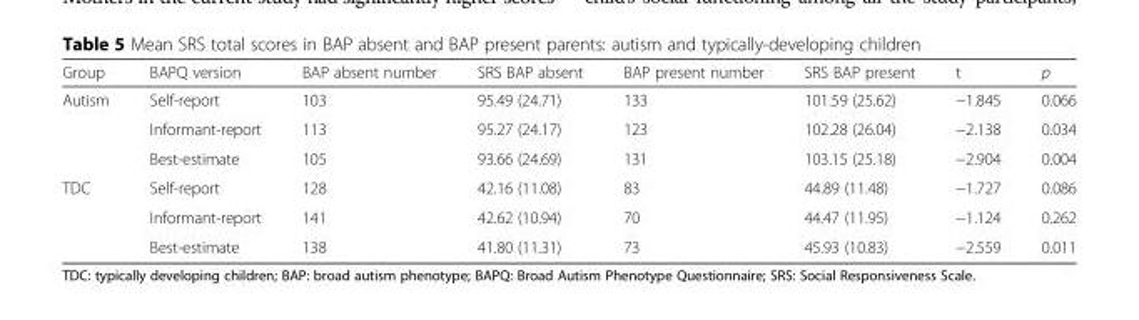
<table><thead><tr><td>Group</td><td>BAPQ version</td><td>BAP absent number</td><td>SRS BAP absent</td><td>BAP present number</td><td>SRS BAP present</td><td>t</td><td>p</td></tr></thead><tbody><tr><td rowspan="3">Autism</td><td>Self-report</td><td>103</td><td>95.49 (24.71)</td><td>133</td><td>101.59 (25.62)</td><td>−1.845</td><td>0.066</td></tr><tr><td>Informant-report</td><td>113</td><td>95.27 (24.17)</td><td>123</td><td>102.28 (26.04)</td><td>−2.138</td><td>0.034</td></tr><tr><td>Best-estimate</td><td>105</td><td>93.66 (24.69)</td><td>131</td><td>103.15 (25.18)</td><td>−2.904</td><td>0.004</td></tr><tr><td rowspan="3">TDC</td><td>Self-report</td><td>128</td><td>42.16 (11.08)</td><td>83</td><td>44.89 (11.48)</td><td>−1.727</td><td>0.086</td></tr><tr><td>Informant-report</td><td>141</td><td>42.62 (10.94)</td><td>70</td><td>44.47 (11.95)</td><td>−1.124</td><td>0.262</td></tr><tr><td>Best-estimate</td><td>138</td><td>41.80 (11.31)</td><td>73</td><td>45.93 (10.83)</td><td>−2.559</td><td>0.011</td></tr></tbody></table>